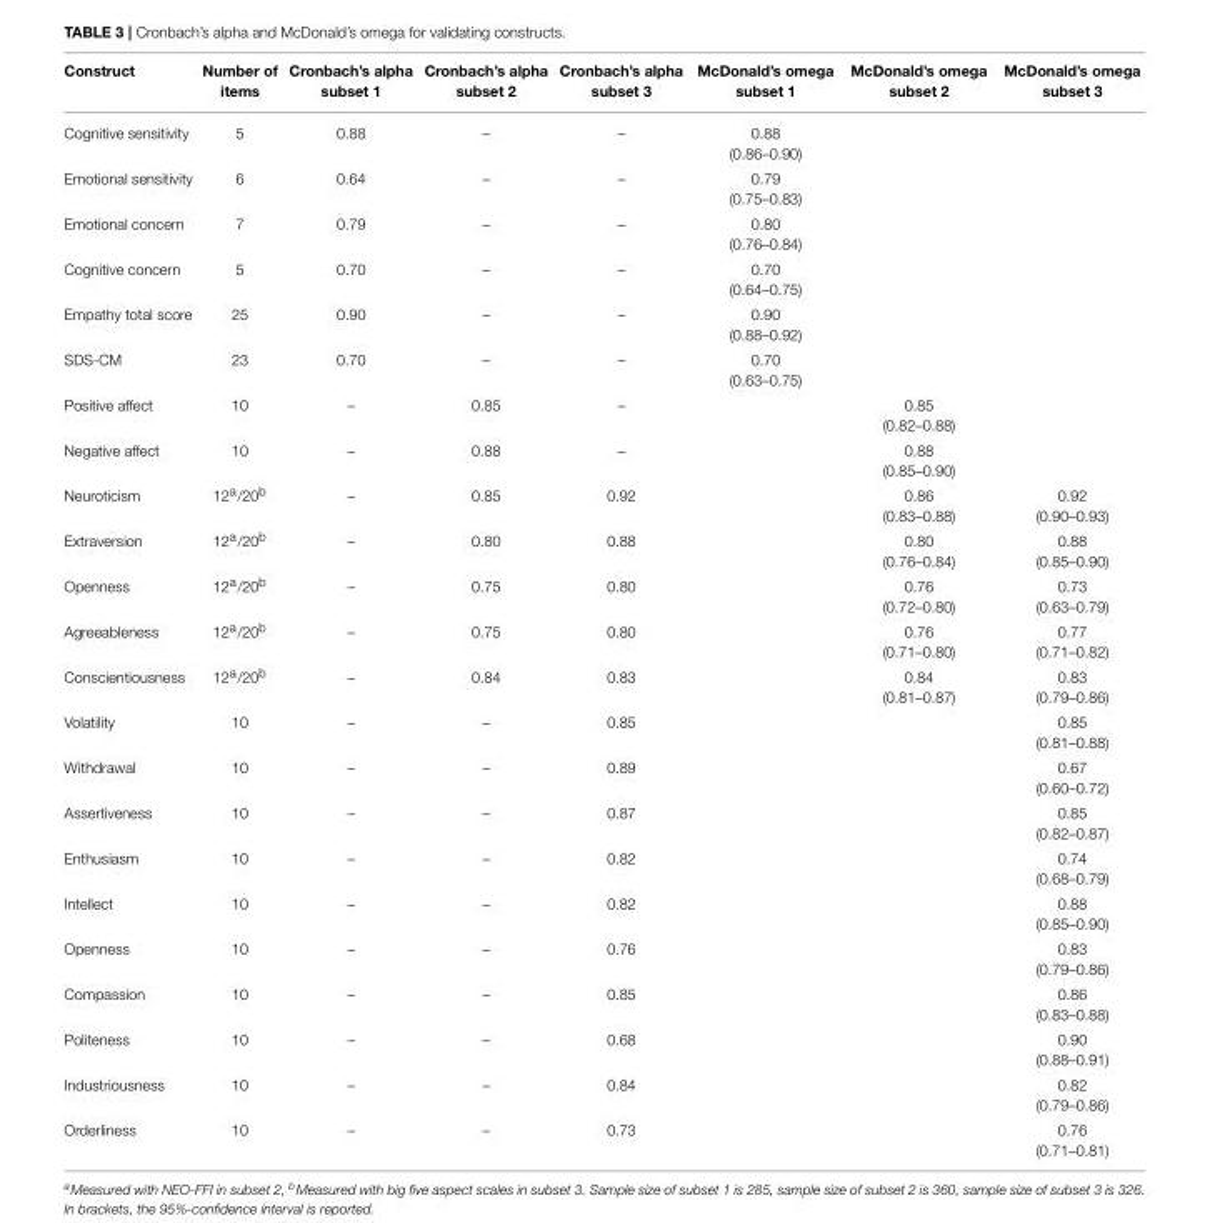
<table><thead><tr><td>Construct</td><td>Number of items</td><td>Cronbach’s alpha subset 1</td><td>Cronbach’s alpha subset 2</td><td>Cronbach’s alpha subset 3</td><td>McDonald’s omega subset 1</td><td>McDonald’s omega subset 2</td><td>McDonald’s omega subset 3</td></tr></thead><tbody><tr><td>Cognitive sensitivity</td><td>5</td><td>0.88</td><td>–</td><td>–</td><td>0.88 (0.86–0.90)</td><td></td><td></td></tr><tr><td>Emotional sensitivity</td><td>6</td><td>0.64</td><td>–</td><td>–</td><td>0.79 (0.75–0.83)</td><td></td><td></td></tr><tr><td>Emotional concern</td><td>7</td><td>0.79</td><td>–</td><td>–</td><td>0.80 (0.76–0.84)</td><td></td><td></td></tr><tr><td>Cognitive concern</td><td>5</td><td>0.70</td><td>–</td><td>–</td><td>0.70 (0.64–0.75)</td><td></td><td></td></tr><tr><td>Empathy total score</td><td>25</td><td>0.90</td><td>–</td><td>–</td><td>0.90 (0.88–0.92)</td><td></td><td></td></tr><tr><td>SDS-CM</td><td>23</td><td>0.70</td><td>–</td><td>–</td><td>0.70 (0.63–0.75)</td><td></td><td></td></tr><tr><td>Positive affect</td><td>10</td><td>–</td><td>0.85</td><td>–</td><td></td><td>0.85 (0.82–0.88)</td><td></td></tr><tr><td>Negative affect</td><td>10</td><td>–</td><td>0.88</td><td>–</td><td></td><td>0.88 (0.85–0.90)</td><td></td></tr><tr><td>Neuroticism</td><td>12<sup>a</sup>/20<sup>b</sup></td><td>–</td><td>0.85</td><td>0.92</td><td></td><td>0.86 (0.83–0.88)</td><td>0.92 (0.90–0.93)</td></tr><tr><td>Extraversion</td><td>12<sup>a</sup>/20<sup>b</sup></td><td>–</td><td>0.80</td><td>0.88</td><td></td><td>0.80 (0.76–0.84)</td><td>0.88 (0.85–0.90)</td></tr><tr><td>Openness</td><td>12<sup>a</sup>/20<sup>b</sup></td><td>–</td><td>0.75</td><td>0.80</td><td></td><td>0.76 (0.72–0.80)</td><td>0.73 (0.63–0.79)</td></tr><tr><td>Agreeableness</td><td>12<sup>a</sup>/20<sup>b</sup></td><td>–</td><td>0.75</td><td>0.80</td><td></td><td>0.76 (0.71–0.80)</td><td>0.77 (0.71–0.82)</td></tr><tr><td>Conscientiousness</td><td>12<sup>a</sup>/20<sup>b</sup></td><td>–</td><td>0.84</td><td>0.83</td><td></td><td>0.84 (0.81–0.87)</td><td>0.83 (0.79–0.86)</td></tr><tr><td>Volatility</td><td>10</td><td>–</td><td>–</td><td>0.85</td><td></td><td></td><td>0.85 (0.81–0.88)</td></tr><tr><td>Withdrawal</td><td>10</td><td>–</td><td>–</td><td>0.89</td><td></td><td></td><td>0.67 (0.60–0.72)</td></tr><tr><td>Assertiveness</td><td>10</td><td>–</td><td>–</td><td>0.87</td><td></td><td></td><td>0.85 (0.82–0.87)</td></tr><tr><td>Enthusiasm</td><td>10</td><td>–</td><td>–</td><td>0.82</td><td></td><td></td><td>0.74 (0.68–0.79)</td></tr><tr><td>Intellect</td><td>10</td><td>–</td><td>–</td><td>0.82</td><td></td><td></td><td>0.88 (0.85–0.90)</td></tr><tr><td>Openness</td><td>10</td><td>–</td><td>–</td><td>0.76</td><td></td><td></td><td>0.83 (0.79–0.86)</td></tr><tr><td>Compassion</td><td>10</td><td>–</td><td>–</td><td>0.85</td><td></td><td></td><td>0.86 (0.83–0.88)</td></tr><tr><td>Politeness</td><td>10</td><td>–</td><td>–</td><td>0.68</td><td></td><td></td><td>0.90 (0.88–0.91)</td></tr><tr><td>Industriousness</td><td>10</td><td>–</td><td>–</td><td>0.84</td><td></td><td></td><td>0.82 (0.79–0.86)</td></tr><tr><td>Orderliness</td><td>10</td><td>–</td><td>–</td><td>0.73</td><td></td><td></td><td>0.76 (0.71–0.81)</td></tr></tbody></table>